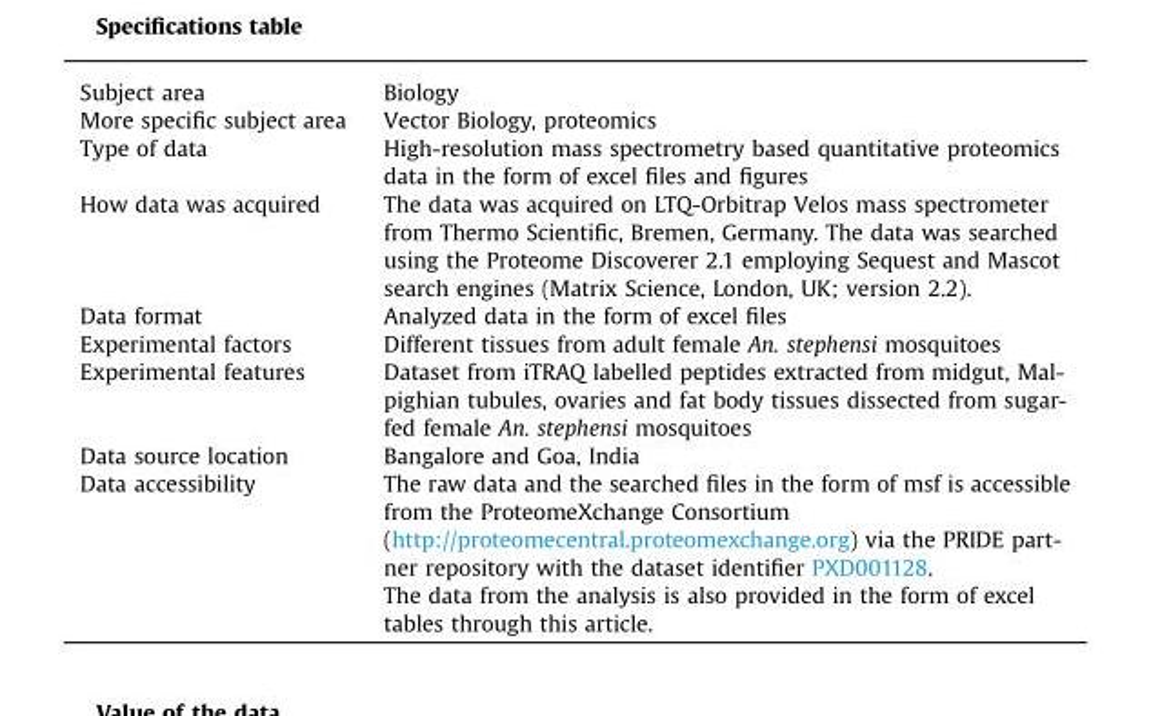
<table><tbody><tr><td>Subject area</td><td>Biology</td></tr><tr><td>More specific subject area</td><td>Vector Biology, proteomics</td></tr><tr><td>Type of data</td><td>High-resolution mass spectrometry based quantitative proteomics data in the form of excel files and figures</td></tr><tr><td>How data was acquired</td><td>The data was acquired on LTQ-Orbitrap Velos mass spectrometer from Thermo Scientific, Bremen, Germany. The data was searched using the Proteome Discoverer 2.1 employing Sequest and Mascot search engines (Matrix Science, London, UK; version 2.2).</td></tr><tr><td>Data format</td><td>Analyzed data in the form of excel files</td></tr><tr><td>Experimental factors</td><td>Different tissues from adult female An. stephensi mosquitoes</td></tr><tr><td>Experimental features</td><td>Dataset from iTRAQ labelled peptides extracted from midgut, Mal- pighian tubules, ovaries and fat body tissues dissected from sugar- fed female An. stephensi mosquitoes</td></tr><tr><td>Data source location</td><td>Bangalore and Goa, India</td></tr><tr><td rowspan="3">Data accessibility</td><td>The raw data and the searched files in the form of msf is accessible from the ProteomeXchange Consortium</td></tr><tr><td>(http://proteomecentral.proteomexchange.org) via the PRIDE part- ner repository with the dataset identifier PXD001128.</td></tr><tr><td>The data from the analysis is also provided in the form of excel tables through this article.</td></tr></tbody></table>